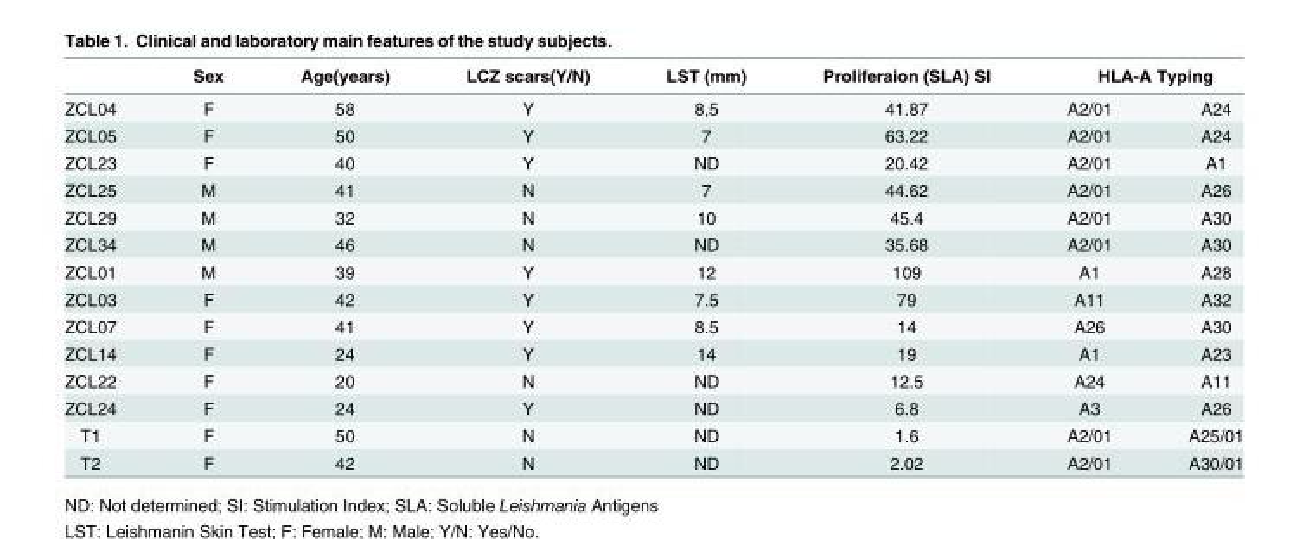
<table><thead><tr><td rowspan="2">ZCL04</td><td rowspan="2">Sex F</td><td rowspan="2">Age(years) 58</td><td rowspan="2">LCZ scars(Y/N) Y</td><td rowspan="2">LST (mm) 8,5</td><td rowspan="2">Proliferaion (SLA) SI 41.87</td><td colspan="2">HLA-A Typing</td></tr><tr><td>A2/01</td><td>A24</td></tr></thead><tbody><tr><td>ZCL05</td><td>F</td><td>50</td><td>Y</td><td>7</td><td>63.22</td><td>A2/01</td><td>A24</td></tr><tr><td>ZCL23</td><td>F</td><td>40</td><td>Y</td><td>ND</td><td>20.42</td><td>A2/01</td><td>A1</td></tr><tr><td>ZCL25</td><td>M</td><td>41</td><td>N</td><td>7</td><td>44.62</td><td>A2/01</td><td>A26</td></tr><tr><td>ZCL29</td><td>M</td><td>32</td><td>N</td><td>10</td><td>45.4</td><td>A2/01</td><td>A30</td></tr><tr><td>ZCL34</td><td>M</td><td>46</td><td>N</td><td>ND</td><td>35.68</td><td>A2/01</td><td>A30</td></tr><tr><td>ZCL01</td><td>M</td><td>39</td><td>Y</td><td>12</td><td>109</td><td>A1</td><td>A28</td></tr><tr><td>ZCL03</td><td>F</td><td>42</td><td>Y</td><td>7.5</td><td>79</td><td>A11</td><td>A32</td></tr><tr><td>ZCL07</td><td>F</td><td>41</td><td>Y</td><td>8.5</td><td>14</td><td>A26</td><td>A30</td></tr><tr><td>ZCL14</td><td>F</td><td>24</td><td>Y</td><td>14</td><td>19</td><td>A1</td><td>A23</td></tr><tr><td>ZCL22</td><td>F</td><td>20</td><td>N</td><td>ND</td><td>12.5</td><td>A24</td><td>A11</td></tr><tr><td>ZCL24</td><td>F</td><td>24</td><td>Y</td><td>ND</td><td>6.8</td><td>A3</td><td>A26</td></tr><tr><td>T1</td><td>F</td><td>50</td><td>N</td><td>ND</td><td>1.6</td><td>A2/01</td><td>A25/01</td></tr><tr><td>T2</td><td>F</td><td>42</td><td>N</td><td>ND</td><td>2.02</td><td>A2/01</td><td>A30/01</td></tr></tbody></table>